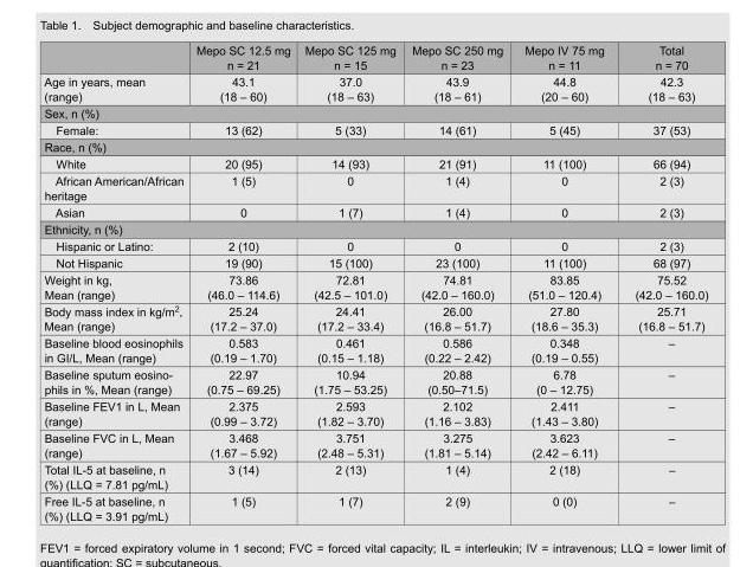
<table><thead><tr><td></td><td>Mepo SC 12.5 mg n = 21</td><td>Mepo SC 125 mg n = 15</td><td>Mepo SC 250 mg n = 23</td><td>Mepo IV 75 mg n = 11</td><td>Total n = 70</td></tr></thead><tbody><tr><td>Age in years, mean (range)</td><td>43.1 (18 – 60)</td><td>37.0 (18 – 63)</td><td>43.9 (18 – 61)</td><td>44.8 (20 – 60)</td><td>42.3 (18 – 63)</td></tr><tr><td colspan="6">Sex, n (%)</td></tr><tr><td>Female:</td><td>13 (62)</td><td>5 (33)</td><td>14 (61)</td><td>5 (45)</td><td>37 (53)</td></tr><tr><td colspan="6">Race, n (%)</td></tr><tr><td>White</td><td>20 (95)</td><td>14 (93)</td><td>21 (91)</td><td>11 (100)</td><td>66 (94)</td></tr><tr><td>African American/African heritage</td><td>1 (5)</td><td>0</td><td>1 (4)</td><td>0</td><td>2 (3)</td></tr><tr><td>Asian</td><td>0</td><td>1 (7)</td><td>1 (4)</td><td>0</td><td>2 (3)</td></tr><tr><td colspan="6">Ethnicity, n (%)</td></tr><tr><td>Hispanic or Latino:</td><td>2 (10)</td><td>0</td><td>0</td><td>0</td><td>2 (3)</td></tr><tr><td>Not Hispanic</td><td>19 (90)</td><td>15 (100)</td><td>23 (100)</td><td>11 (100)</td><td>68 (97)</td></tr><tr><td>Weight in kg, Mean (range)</td><td>73.86 (46.0 – 114.6)</td><td>72.81 (42.5 – 101.0)</td><td>74.81 (42.0 – 160.0)</td><td>83.85 (51.0 – 120.4)</td><td>75.52 (42.0 – 160.0)</td></tr><tr><td>Body mass index in kg/m<sup>2</sup>, Mean (range)</td><td>25.24 (17.2 – 37.0)</td><td>24.41 (17.2 – 33.4)</td><td>26.00 (16.8 – 51.7)</td><td>27.80 (18.6 – 35.3)</td><td>25.71 (16.8 – 51.7)</td></tr><tr><td>Baseline blood eosinophils in GI/L, Mean (range)</td><td>0.583 (0.19 – 1.70)</td><td>0.461 (0.15 – 1.18)</td><td>0.586 (0.22 – 2.42)</td><td>0.348 (0.19 – 0.55)</td><td>–</td></tr><tr><td>Baseline sputum eosino- phils in %, Mean (range)</td><td>22.97 (0.75 – 69.25)</td><td>10.94 (1.75 – 53.25)</td><td>20.88 (0.50–71.5)</td><td>6.78 (0 – 12.75)</td><td>–</td></tr><tr><td>Baseline FEV1 in L, Mean (range)</td><td>2.375 (0.99 – 3.72)</td><td>2.593 (1.82 – 3.70)</td><td>2.102 (1.16 – 3.83)</td><td>2.411 (1.43 – 3.80)</td><td>–</td></tr><tr><td>Baseline FVC in L, Mean (range)</td><td>3.468 (1.67 – 5.92)</td><td>3.751 (2.48 – 5.31)</td><td>3.275 (1.81 – 5.14)</td><td>3.623 (2.42 – 6.11)</td><td>–</td></tr><tr><td>Total IL-5 at baseline, n (%) (LLQ = 7.81 pg/mL)</td><td>3 (14)</td><td>2 (13)</td><td>1 (4)</td><td>2 (18)</td><td>–</td></tr><tr><td>Free IL-5 at baseline, n (%) (LLQ = 3.91 pg/mL)</td><td>1 (5)</td><td>1 (7)</td><td>2 (9)</td><td>0 (0)</td><td>–</td></tr></tbody></table>